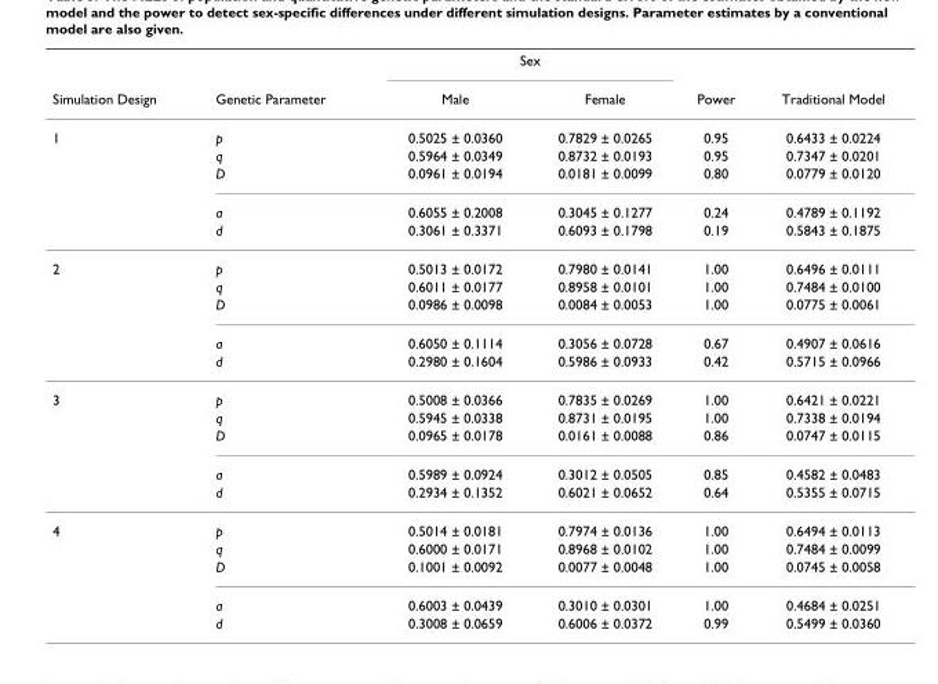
<table><thead><tr><td rowspan="2">Simulation Design</td><td rowspan="2">Genetic Parameter</td><td colspan="2">Sex</td><td rowspan="2">Power</td><td rowspan="2">Traditional Model</td></tr><tr><td>Male</td><td>Female</td></tr></thead><tbody><tr><td rowspan="5">1</td><td>p</td><td>0.5025 ± 0.0360</td><td>0.7829 ± 0.0265</td><td>0.95</td><td>0.6433 ± 0.0224</td></tr><tr><td>q</td><td>0.5964 ± 0.0349</td><td>0.8732 ± 0.0193</td><td>0.95</td><td>0.7347 ± 0.0201</td></tr><tr><td>D</td><td>0.0961 ± 0.0194</td><td>0.0181 ± 0.0099</td><td>0.80</td><td>0.0779 ± 0.0120</td></tr><tr><td>a</td><td>0.6055 ± 0.2008</td><td>0.3045 ± 0.1277</td><td>0.24</td><td>0.4789 ± 0.1192</td></tr><tr><td>d</td><td>0.3061 ± 0.3371</td><td>0.6093 ± 0.1798</td><td>0.19</td><td>0.5843 ± 0.1875</td></tr><tr><td rowspan="5">2</td><td>p</td><td>0.5013 ± 0.0172</td><td>0.7980 ± 0.0141</td><td>1.00</td><td>0.6496 ± 0.0111</td></tr><tr><td>q</td><td>0.6011 ± 0.0177</td><td>0.8958 ± 0.0101</td><td>1.00</td><td>0.7484 ± 0.0100</td></tr><tr><td>D</td><td>0.0986 ± 0.0098</td><td>0.0084 ± 0.0053</td><td>1.00</td><td>0.0775 ± 0.0061</td></tr><tr><td>a</td><td>0.6050 ± 0.1114</td><td>0.3056 ± 0.0728</td><td>0.67</td><td>0.4907 ± 0.0616</td></tr><tr><td>d</td><td>0.2980 ± 0.1604</td><td>0.5986 ± 0.0933</td><td>0.42</td><td>0.5715 ± 0.0966</td></tr><tr><td rowspan="5">3</td><td>p</td><td>0.5008 ± 0.0366</td><td>0.7835 ± 0.0269</td><td>1.00</td><td>0.6421 ± 0.0221</td></tr><tr><td>q</td><td>0.5945 ± 0.0338</td><td>0.8731 ± 0.0195</td><td>1.00</td><td>0.7338 ± 0.0194</td></tr><tr><td>D</td><td>0.0965 ± 0.0178</td><td>0.0161 ± 0.0088</td><td>0.86</td><td>0.0747 ± 0.0115</td></tr><tr><td>a</td><td>0.5989 ± 0.0924</td><td>0.3012 ± 0.0505</td><td>0.85</td><td>0.4582 ± 0.0483</td></tr><tr><td>d</td><td>0.2934 ± 0.1352</td><td>0.6021 ± 0.0652</td><td>0.64</td><td>0.5355 ± 0.0715</td></tr><tr><td rowspan="5">4</td><td>p</td><td>0.5014 ± 0.0181</td><td>0.7974 ± 0.0136</td><td>1.00</td><td>0.6494 ± 0.0113</td></tr><tr><td>q</td><td>0.6000 ± 0.0171</td><td>0.8968 ± 0.0102</td><td>1.00</td><td>0.7484 ± 0.0099</td></tr><tr><td>D</td><td>0.1001 ± 0.0092</td><td>0.0077 ± 0.0048</td><td>1.00</td><td>0.0745 ± 0.0058</td></tr><tr><td>a</td><td>0.6003 ± 0.0439</td><td>0.3010 ± 0.0301</td><td>1.00</td><td>0.4684 ± 0.0251</td></tr><tr><td>d</td><td>0.3008 ± 0.0659</td><td>0.6006 ± 0.0372</td><td>0.99</td><td>0.5499 ± 0.0360</td></tr></tbody></table>